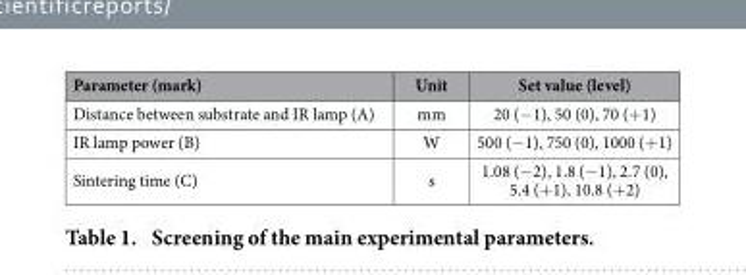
<table><thead><tr><td>Parameter (mark)</td><td>Unit</td><td>Set value (level)</td></tr></thead><tbody><tr><td>Distance between substrate and IR lamp (A)</td><td>mm</td><td>20 (− 1), 50 (0), 70 (+ 1)</td></tr><tr><td>IR lamp power (B)</td><td>W</td><td>500 (− 1), 750 (0), 1000 (+ 1)</td></tr><tr><td>Sintering time (C)</td><td>s</td><td>1.08 (− 2), 1.8 (− 1), 2.7 (0), 5.4 (+ 1), 10.8 (+ 2)</td></tr></tbody></table>